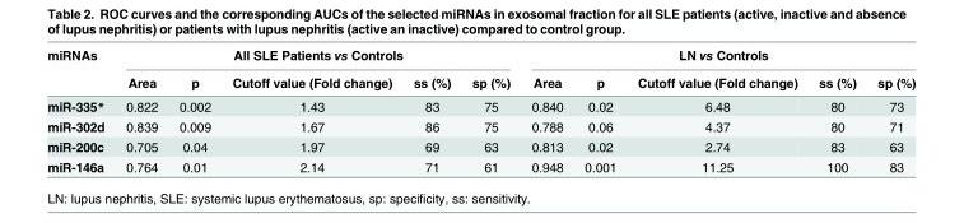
<table><thead><tr><td rowspan="2">miRNAs</td><td colspan="5">All SLE Patients vs Controls</td><td colspan="5">LN vs Controls</td></tr><tr><td>Area</td><td>p</td><td>Cutoff value (Fold change)</td><td>ss (%)</td><td>sp (%)</td><td>Area</td><td>p</td><td>Cutoff value (Fold change)</td><td>ss (%)</td><td>sp (%)</td></tr></thead><tbody><tr><td>miR-335*</td><td>0.822</td><td>0.002</td><td>1.43</td><td>83</td><td>75</td><td>0.840</td><td>0.02</td><td>6.48</td><td>80</td><td>73</td></tr><tr><td>miR-302d</td><td>0.839</td><td>0.009</td><td>1.67</td><td>86</td><td>75</td><td>0.788</td><td>0.06</td><td>4.37</td><td>80</td><td>71</td></tr><tr><td>miR-200c</td><td>0.705</td><td>0.04</td><td>1.97</td><td>69</td><td>63</td><td>0.813</td><td>0.02</td><td>2.74</td><td>83</td><td>63</td></tr><tr><td>miR-146a</td><td>0.764</td><td>0.01</td><td>2.14</td><td>71</td><td>61</td><td>0.948</td><td>0.001</td><td>11.25</td><td>100</td><td>83</td></tr></tbody></table>